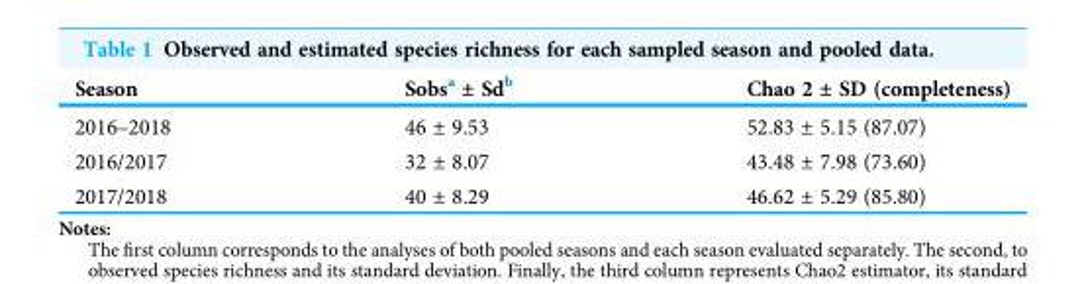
<table><thead><tr><td>Season</td><td>Sobs<sup>a</sup> ± Sd<sup>b</sup></td><td>Chao 2 ± SD (completeness)</td></tr></thead><tbody><tr><td>2016–2018</td><td>46 ± 9.53</td><td>52.83 ± 5.15 (87.07)</td></tr><tr><td>2016/2017</td><td>32 ± 8.07</td><td>43.48 ± 7.98 (73.60)</td></tr><tr><td>2017/2018</td><td>40 ± 8.29</td><td>46.62 ± 5.29 (85.80)</td></tr></tbody></table>